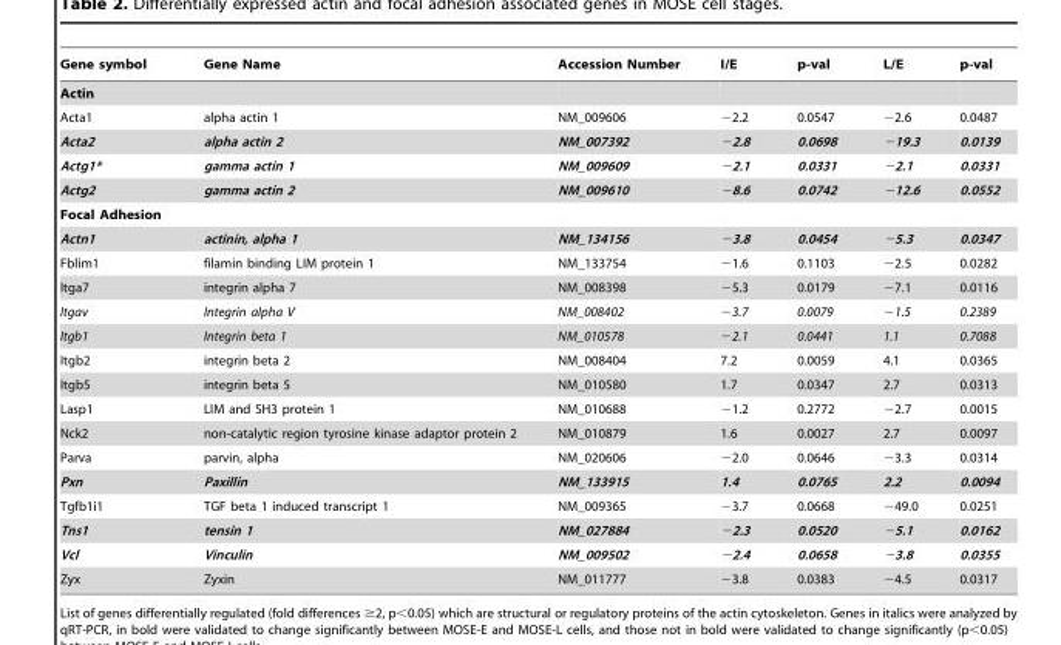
<table><thead><tr><td>Gene symbol</td><td>Gene Name</td><td>Accession Number</td><td>I/E</td><td>p-val</td><td>L/E</td><td>p-val</td></tr></thead><tbody><tr><td colspan="7">Actin</td></tr><tr><td>Acta1</td><td>alpha actin 1</td><td>NM_009606</td><td>−2.2</td><td>0.0547</td><td>−2.6</td><td>0.0487</td></tr><tr><td>Acta2</td><td>alpha actin 2</td><td>NM_007392</td><td>−2.8</td><td>0.0698</td><td>−19.3</td><td>0.0139</td></tr><tr><td>Actg1*</td><td>gamma actin 1</td><td>NM_009609</td><td>−2.1</td><td>0.0331</td><td>−2.1</td><td>0.0331</td></tr><tr><td>Actg2</td><td>gamma actin 2</td><td>NM_009610</td><td>−8.6</td><td>0.0742</td><td>−12.6</td><td>0.0552</td></tr><tr><td colspan="7">Focal Adhesion</td></tr><tr><td>Actn1</td><td>actinin, alpha 1</td><td>NM_134156</td><td>−3.8</td><td>0.0454</td><td>−5.3</td><td>0.0347</td></tr><tr><td>Fblim1</td><td>filamin binding LIM protein 1</td><td>NM_133754</td><td>−1.6</td><td>0.1103</td><td>−2.5</td><td>0.0282</td></tr><tr><td>Itga7</td><td>integrin alpha 7</td><td>NM_008398</td><td>−5.3</td><td>0.0179</td><td>−7.1</td><td>0.0116</td></tr><tr><td>Itgav</td><td>Integrin alpha V</td><td>NM_008402</td><td>−3.7</td><td>0.0079</td><td>−1.5</td><td>0.2389</td></tr><tr><td>Itgb1</td><td>Integrin beta 1</td><td>NM_010578</td><td>−2.1</td><td>0.0441</td><td>1.1</td><td>0.7088</td></tr><tr><td>Itgb2</td><td>integrin beta 2</td><td>NM_008404</td><td>7.2</td><td>0.0059</td><td>4.1</td><td>0.0365</td></tr><tr><td>Itgb5</td><td>integrin beta 5</td><td>NM_010580</td><td>1.7</td><td>0.0347</td><td>2.7</td><td>0.0313</td></tr><tr><td>Lasp1</td><td>LIM and SH3 protein 1</td><td>NM_010688</td><td>−1.2</td><td>0.2772</td><td>−2.7</td><td>0.0015</td></tr><tr><td>Nck2</td><td>non-catalytic region tyrosine kinase adaptor protein 2</td><td>NM_010879</td><td>1.6</td><td>0.0027</td><td>2.7</td><td>0.0097</td></tr><tr><td>Parva</td><td>parvin, alpha</td><td>NM_020606</td><td>−2.0</td><td>0.0646</td><td>−3.3</td><td>0.0314</td></tr><tr><td>Pxn</td><td>Paxillin</td><td>NM_133915</td><td>1.4</td><td>0.0765</td><td>2.2</td><td>0.0094</td></tr><tr><td>Tgfb1i1</td><td>TGF beta 1 induced transcript 1</td><td>NM_009365</td><td>−3.7</td><td>0.0668</td><td>−49.0</td><td>0.0251</td></tr><tr><td>Tns1</td><td>tensin 1</td><td>NM_027884</td><td>−2.3</td><td>0.0520</td><td>−5.1</td><td>0.0162</td></tr><tr><td>Vcl</td><td>Vinculin</td><td>NM_009502</td><td>−2.4</td><td>0.0658</td><td>−3.8</td><td>0.0355</td></tr><tr><td>Zyx</td><td>Zyxin</td><td>NM_011777</td><td>−3.8</td><td>0.0383</td><td>−4.5</td><td>0.0317</td></tr></tbody></table>